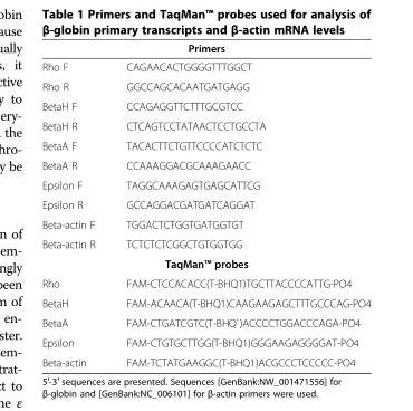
<table><thead><tr><td colspan="2">Primers</td></tr><tr><td>Rho F</td><td>CAGAACACTGGGGTTTGGCT</td></tr></thead><tbody><tr><td>Rho R</td><td>GGCCAGCACAATGATGAGG</td></tr><tr><td>BetaH F</td><td>CCAGAGGTTCTTTGCGTCC</td></tr><tr><td>BetaH R</td><td>CTCAGTCCTATAACTCCTGCCTA</td></tr><tr><td>BetaA F</td><td>TACACTTCTGTTCCCCATCTCTC</td></tr><tr><td>BetaA R</td><td>CCAAAGGACGCAAAGAACC</td></tr><tr><td>Epsilon F</td><td>TAGGCAAAGAGTGAGCATTCG</td></tr><tr><td>Epsilon R</td><td>GCCAGGACGATGATCAGGAT</td></tr><tr><td>Beta-actin F</td><td>TGGACTCTGGTGATGGTGT</td></tr><tr><td>Beta-actin R</td><td>TCTCTCTCGGCTGTGGTGG</td></tr><tr><td colspan="2">TaqMan™ probes</td></tr><tr><td>Rho</td><td>FAM-CTCCACACC(T-BHQ1)TGCTTACCCCATTG-PO4</td></tr><tr><td>BetaH</td><td>FAM-ACAACA(T-BHQ1)CAAGAAGAGCTTTGCCCAG-PO4</td></tr><tr><td>BetaA</td><td>FAM-CTGATCGTC(T-BHQ`)ACCCCTGGACCCAGA-PO4</td></tr><tr><td>Epsilon</td><td>FAM-CTGTGCTTGG(T-BHQ1)GGGAAGAGGGGAT-PO4</td></tr><tr><td>Beta-actin</td><td>FAM-TCTATGAAGGC(T-BHQ1)ACGCCCTCCCCC-PO4</td></tr></tbody></table>